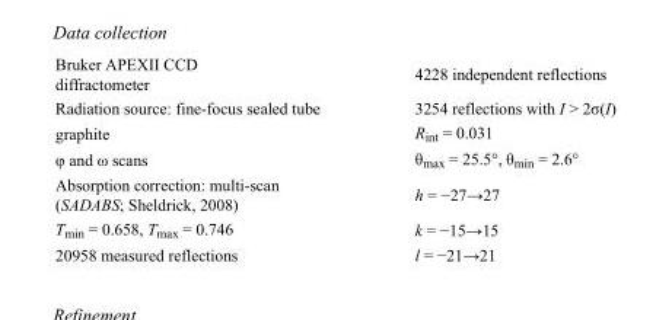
<table><tbody><tr><td>Bruker APEXII CCD diffractometer</td><td>4228 independent reflections</td></tr><tr><td>Radiation source: fine-focus sealed tube</td><td>3254 reflections with I &gt; 2σ(I)</td></tr><tr><td>graphite</td><td>R<sub>int</sub> = 0.031</td></tr><tr><td>φ and ω scans</td><td>θ<sub>max</sub> = 25.5°, θ<sub>min</sub> = 2.6°</td></tr><tr><td>Absorption correction: multi-scan (SADABS; Sheldrick, 2008)</td><td>h = −27→27</td></tr><tr><td>T<sub>min</sub> = 0.658, T<sub>max</sub> = 0.746</td><td>k = −15→15</td></tr><tr><td>20958 measured reflections</td><td>l = −21→21</td></tr></tbody></table>